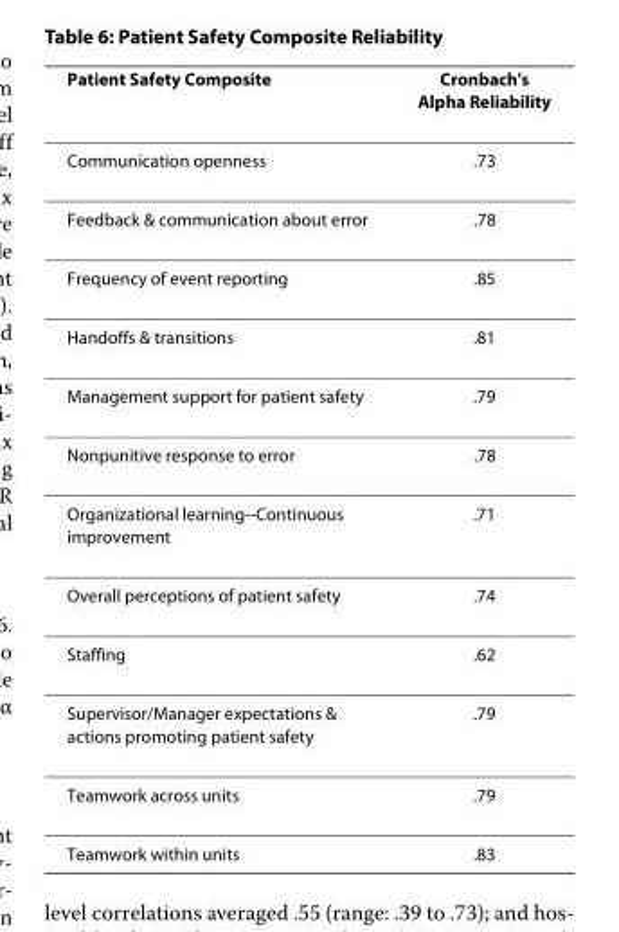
<table><thead><tr><td>Patient Safety Composite</td><td>Cronbach&#x27;s Alpha Reliability</td></tr></thead><tbody><tr><td>Communication openness</td><td>.73</td></tr><tr><td>Feedback &amp; communication about error</td><td>.78</td></tr><tr><td>Frequency of event reporting</td><td>.85</td></tr><tr><td>Handoffs &amp; transitions</td><td>.81</td></tr><tr><td>Management support for patient safety</td><td>.79</td></tr><tr><td>Nonpunitive response to error</td><td>.78</td></tr><tr><td>Organizational learning--Continuous improvement</td><td>.71</td></tr><tr><td>Overall perceptions of patient safety</td><td>.74</td></tr><tr><td>Staffing</td><td>.62</td></tr><tr><td>Supervisor/Manager expectations &amp; actions promoting patient safety</td><td>.79</td></tr><tr><td>Teamwork across units</td><td>.79</td></tr><tr><td>Teamwork within units</td><td>.83</td></tr></tbody></table>